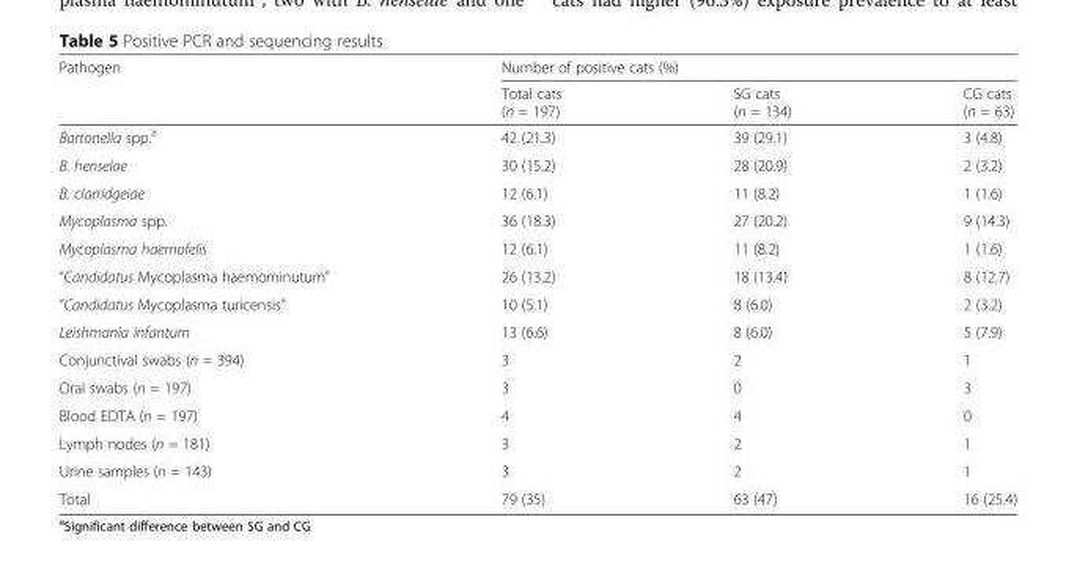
<table><thead><tr><td rowspan="2">Pathogen</td><td colspan="3">Number of positive cats (%)</td></tr><tr><td>Total cats (n = 197)</td><td>SG cats (n = 134)</td><td>CG cats (n = 63)</td></tr></thead><tbody><tr><td>Bartonella spp.<sup>a</sup></td><td>42 (21.3)</td><td>39 (29.1)</td><td>3 (4.8)</td></tr><tr><td>B. henselae</td><td>30 (15.2)</td><td>28 (20.9)</td><td>2 (3.2)</td></tr><tr><td>B. clarridgeiae</td><td>12 (6.1)</td><td>11 (8.2)</td><td>1 (1.6)</td></tr><tr><td>Mycoplasma spp.</td><td>36 (18.3)</td><td>27 (20.2)</td><td>9 (14.3)</td></tr><tr><td>Mycoplasma haemofelis</td><td>12 (6.1)</td><td>11 (8.2)</td><td>1 (1.6)</td></tr><tr><td>“Candidatus Mycoplasma haemominutum”</td><td>26 (13.2)</td><td>18 (13.4)</td><td>8 (12.7)</td></tr><tr><td>“Candidatus Mycoplasma turicensis”</td><td>10 (5.1)</td><td>8 (6.0)</td><td>2 (3.2)</td></tr><tr><td>Leishmania infantum</td><td>13 (6.6)</td><td>8 (6.0)</td><td>5 (7.9)</td></tr><tr><td>Conjunctival swabs (n = 394)</td><td>3</td><td>2</td><td>1</td></tr><tr><td>Oral swabs (n = 197)</td><td>3</td><td>0</td><td>3</td></tr><tr><td>Blood EDTA (n = 197)</td><td>4</td><td>4</td><td>0</td></tr><tr><td>Lymph nodes (n = 181)</td><td>3</td><td>2</td><td>1</td></tr><tr><td>Urine samples (n = 143)</td><td>3</td><td>2</td><td>1</td></tr><tr><td>Total</td><td>79 (35)</td><td>63 (47)</td><td>16 (25.4)</td></tr></tbody></table>